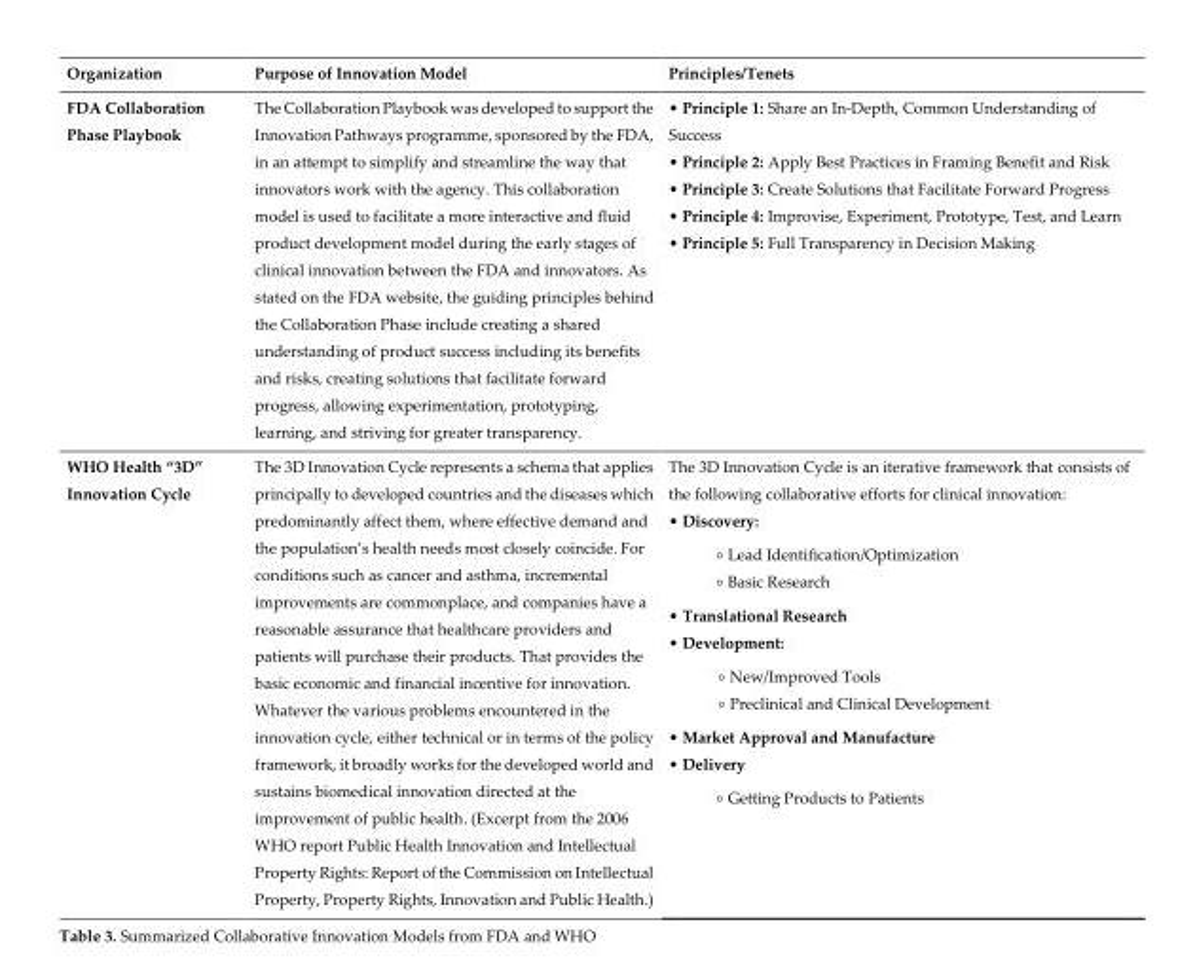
<table><thead><tr><td>Organization</td><td>Purpose of Innovation Model</td><td>Principles/Tenets</td></tr></thead><tbody><tr><td>FDA Collaboration Phase Playbook</td><td>The Collaboration Playbook was developed to support the Innovation Pathways programme, sponsored by the FDA, in an attempt to simplify and streamline the way that innovators work with the agency. This collaboration model is used to facilitate a more interactive and fluid product development model during the early stages of clinical innovation between the FDA and innovators. As stated on the FDA website, the guiding principles behind the Collaboration Phase include creating a shared understanding of product success including its benefits and risks, creating solutions that facilitate forward progress, allowing experimentation, prototyping, learning, and striving for greater transparency.</td><td>• Principle 1: Share an In-Depth, Common Understanding of Success • Principle 2: Apply Best Practices in Framing Benefit and Risk • Principle 3: Create Solutions that Facilitate Forward Progress • Principle 4: Improvise, Experiment, Prototype, Test, and Learn • Principle 5: Full Transparency in Decision Making</td></tr><tr><td>WHO Health “3D” Innovation Cycle</td><td>The 3D Innovation Cycle represents a schema that applies principally to developed countries and the diseases which predominantly affect them, where effective demand and the population’s health needs most closely coincide. For conditions such as cancer and asthma, incremental improvements are commonplace, and companies have a reasonable assurance that healthcare providers and patients will purchase their products. That provides the basic economic and financial incentive for innovation. Whatever the various problems encountered in the innovation cycle, either technical or in terms of the policy framework, it broadly works for the developed world and sustains biomedical innovation directed at the improvement of public health. (Excerpt from the 2006 WHO report Public Health Innovation and Intellectual Property Rights: Report of the Commission on Intellectual Property, Property Rights, Innovation and Public Health.)</td><td>The 3D Innovation Cycle is an iterative framework that consists of the following collaborative efforts for clinical innovation: • Discovery: ◦ Lead Identification/Optimization ◦ Basic Research • Translational Research • Development: ◦ New/Improved Tools ◦ Preclinical and Clinical Development • Market Approval and Manufacture • Delivery ◦ Getting Products to Patients</td></tr></tbody></table>